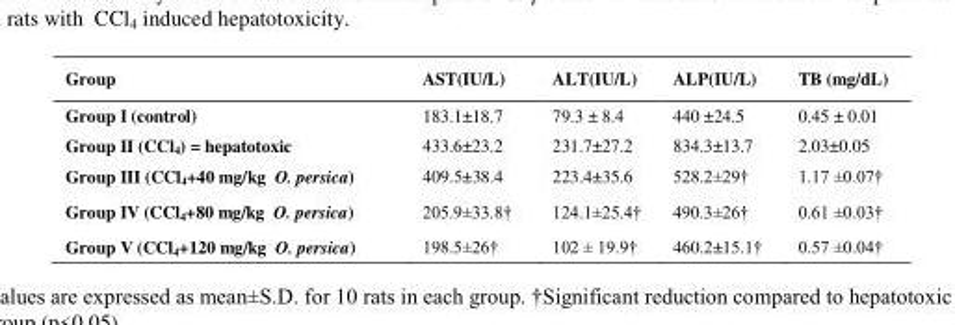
<table><thead><tr><td>Group</td><td>AST(IU/L)</td><td>ALT(IU/L)</td><td>ALP(IU/L)</td><td>TB (mg/dL)</td></tr></thead><tbody><tr><td>Group I (control)</td><td>183.1±18.7</td><td>79.3 ± 8.4</td><td>440 ±24.5</td><td>0.45 ± 0.01</td></tr><tr><td>Group II (CCl<sub>4</sub>) = hepatotoxic</td><td>433.6±23.2</td><td>231.7±27.2</td><td>834.3±13.7</td><td>2.03±0.05</td></tr><tr><td>Group III (CCl<sub>4</sub>+40 mg/kg O. persica)</td><td>409.5±38.4</td><td>223.4±35.6</td><td>528.2±29†</td><td>1.17 ±0.07†</td></tr><tr><td>Group IV (CCl<sub>4</sub>+80 mg/kg O. persica)</td><td>205.9±33.8†</td><td>124.1±25.4†</td><td>490.3±26†</td><td>0.61 ±0.03†</td></tr><tr><td>Group V (CCl<sub>4</sub>+120 mg/kg O. persica)</td><td>198.5±26†</td><td>102 ± 19.9†</td><td>460.2±15.1†</td><td>0.57 ±0.04†</td></tr></tbody></table>